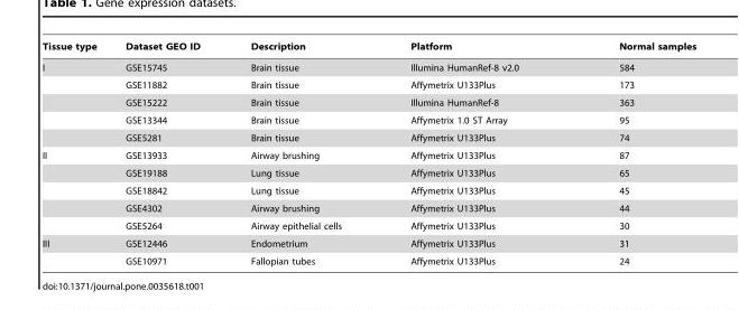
<table><thead><tr><td>Tissue type</td><td>Dataset GEO ID</td><td>Description</td><td>Platform</td><td>Normal samples</td></tr></thead><tbody><tr><td rowspan="5">I</td><td>GSE15745</td><td>Brain tissue</td><td>Illumina HumanRef-8 v2.0</td><td>584</td></tr><tr><td>GSE11882</td><td>Brain tissue</td><td>Affymetrix U133Plus</td><td>173</td></tr><tr><td>GSE15222</td><td>Brain tissue</td><td>Illumina HumanRef-8</td><td>363</td></tr><tr><td>GSE13344</td><td>Brain tissue</td><td>Affymetrix 1.0 ST Array</td><td>95</td></tr><tr><td>GSE5281</td><td>Brain tissue</td><td>Affymetrix U133Plus</td><td>74</td></tr><tr><td rowspan="5">II</td><td>GSE13933</td><td>Airway brushing</td><td>Affymetrix U133Plus</td><td>87</td></tr><tr><td>GSE19188</td><td>Lung tissue</td><td>Affymetrix U133Plus</td><td>65</td></tr><tr><td>GSE18842</td><td>Lung tissue</td><td>Affymetrix U133Plus</td><td>45</td></tr><tr><td>GSE4302</td><td>Airway brushing</td><td>Affymetrix U133Plus</td><td>44</td></tr><tr><td>GSE5264</td><td>Airway epithelial cells</td><td>Affymetrix U133Plus</td><td>30</td></tr><tr><td rowspan="2">III</td><td>GSE12446</td><td>Endometrium</td><td>Affymetrix U133Plus</td><td>31</td></tr><tr><td>GSE10971</td><td>Fallopian tubes</td><td>Affymetrix U133Plus</td><td>24</td></tr></tbody></table>